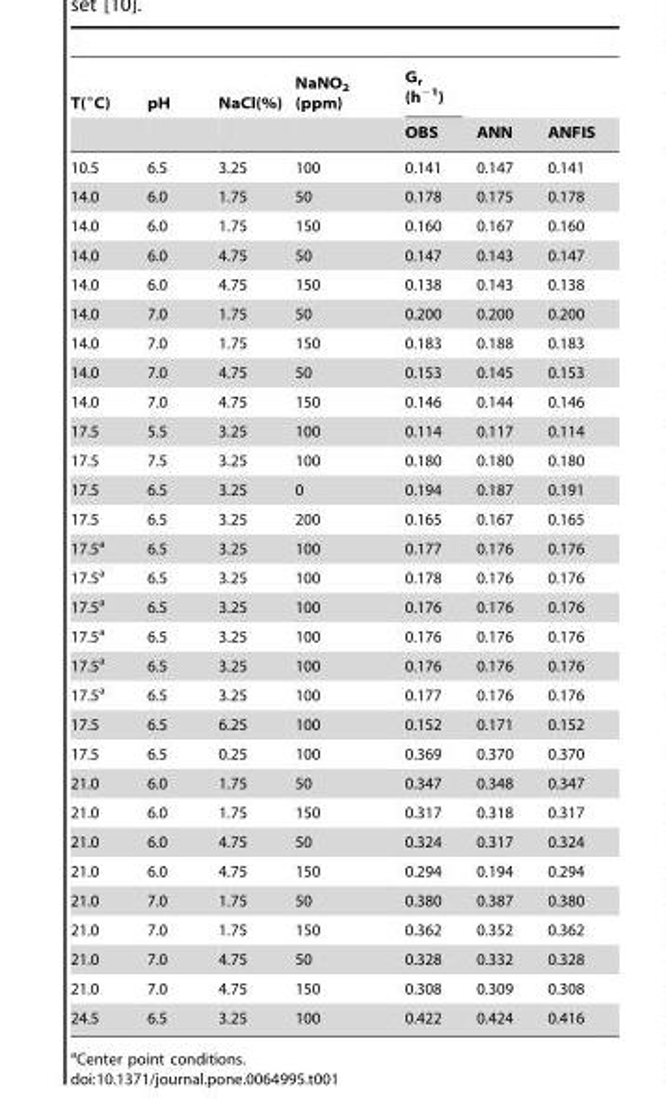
<table><thead><tr><td rowspan="2">T(°C)</td><td rowspan="2">pH</td><td rowspan="2">NaCl(%)</td><td rowspan="2">NaNO<sub>2</sub> (ppm)</td><td rowspan="2">G<sub>r</sub> (h<sup>−1</sup>) OBS</td><td rowspan="2">ANN</td><td rowspan="2">ANFIS</td></tr><tr></tr></thead><tbody><tr><td>10.5</td><td>6.5</td><td>3.25</td><td>100</td><td>0.141</td><td>0.147</td><td>0.141</td></tr><tr><td>14.0</td><td>6.0</td><td>1.75</td><td>50</td><td>0.178</td><td>0.175</td><td>0.178</td></tr><tr><td>14.0</td><td>6.0</td><td>1.75</td><td>150</td><td>0.160</td><td>0.167</td><td>0.160</td></tr><tr><td>14.0</td><td>6.0</td><td>4.75</td><td>50</td><td>0.147</td><td>0.143</td><td>0.147</td></tr><tr><td>14.0</td><td>6.0</td><td>4.75</td><td>150</td><td>0.138</td><td>0.143</td><td>0.138</td></tr><tr><td>14.0</td><td>7.0</td><td>1.75</td><td>50</td><td>0.200</td><td>0.200</td><td>0.200</td></tr><tr><td>14.0</td><td>7.0</td><td>1.75</td><td>150</td><td>0.183</td><td>0.188</td><td>0.183</td></tr><tr><td>14.0</td><td>7.0</td><td>4.75</td><td>50</td><td>0.153</td><td>0.145</td><td>0.153</td></tr><tr><td>14.0</td><td>7.0</td><td>4.75</td><td>150</td><td>0.146</td><td>0.144</td><td>0.146</td></tr><tr><td>17.5</td><td>5.5</td><td>3.25</td><td>100</td><td>0.114</td><td>0.117</td><td>0.114</td></tr><tr><td>17.5</td><td>7.5</td><td>3.25</td><td>100</td><td>0.180</td><td>0.180</td><td>0.180</td></tr><tr><td>17.5</td><td>6.5</td><td>3.25</td><td>0</td><td>0.194</td><td>0.187</td><td>0.191</td></tr><tr><td>17.5</td><td>6.5</td><td>3.25</td><td>200</td><td>0.165</td><td>0.167</td><td>0.165</td></tr><tr><td>17.5<sup>a</sup></td><td>6.5</td><td>3.25</td><td>100</td><td>0.177</td><td>0.176</td><td>0.176</td></tr><tr><td>17.5<sup>a</sup></td><td>6.5</td><td>3.25</td><td>100</td><td>0.178</td><td>0.176</td><td>0.176</td></tr><tr><td>17.5<sup>a</sup></td><td>6.5</td><td>3.25</td><td>100</td><td>0.176</td><td>0.176</td><td>0.176</td></tr><tr><td>17.5<sup>a</sup></td><td>6.5</td><td>3.25</td><td>100</td><td>0.176</td><td>0.176</td><td>0.176</td></tr><tr><td>17.5<sup>a</sup></td><td>6.5</td><td>3.25</td><td>100</td><td>0.176</td><td>0.176</td><td>0.176</td></tr><tr><td>17.5<sup>a</sup></td><td>6.5</td><td>3.25</td><td>100</td><td>0.177</td><td>0.176</td><td>0.176</td></tr><tr><td>17.5</td><td>6.5</td><td>6.25</td><td>100</td><td>0.152</td><td>0.171</td><td>0.152</td></tr><tr><td>17.5</td><td>6.5</td><td>0.25</td><td>100</td><td>0.369</td><td>0.370</td><td>0.370</td></tr><tr><td>21.0</td><td>6.0</td><td>1.75</td><td>50</td><td>0.347</td><td>0.348</td><td>0.347</td></tr><tr><td>21.0</td><td>6.0</td><td>1.75</td><td>150</td><td>0.317</td><td>0.318</td><td>0.317</td></tr><tr><td>21.0</td><td>6.0</td><td>4.75</td><td>50</td><td>0.324</td><td>0.317</td><td>0.324</td></tr><tr><td>21.0</td><td>6.0</td><td>4.75</td><td>150</td><td>0.294</td><td>0.194</td><td>0.294</td></tr><tr><td>21.0</td><td>7.0</td><td>1.75</td><td>50</td><td>0.380</td><td>0.387</td><td>0.380</td></tr><tr><td>21.0</td><td>7.0</td><td>1.75</td><td>150</td><td>0.362</td><td>0.352</td><td>0.362</td></tr><tr><td>21.0</td><td>7.0</td><td>4.75</td><td>50</td><td>0.328</td><td>0.332</td><td>0.328</td></tr><tr><td>21.0</td><td>7.0</td><td>4.75</td><td>150</td><td>0.308</td><td>0.309</td><td>0.308</td></tr><tr><td>24.5</td><td>6.5</td><td>3.25</td><td>100</td><td>0.422</td><td>0.424</td><td>0.416</td></tr></tbody></table>